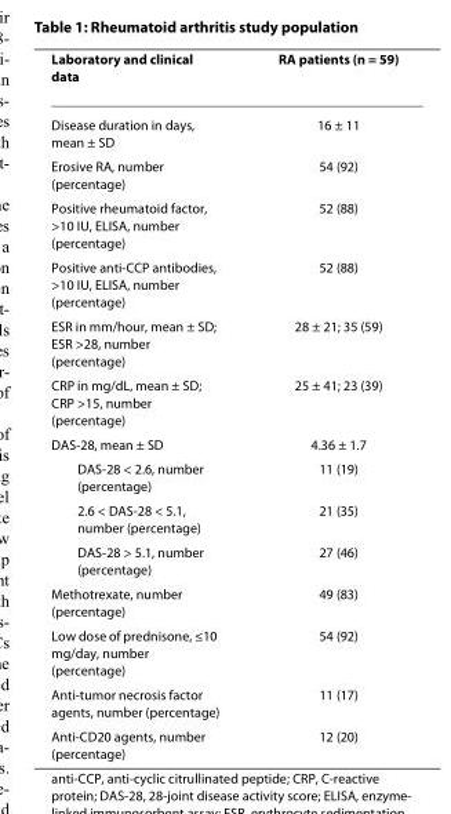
<table><thead><tr><td>Laboratory and clinical data</td><td>RA patients (n = 59)</td></tr></thead><tbody><tr><td>Disease duration in days, mean ± SD</td><td>16 ± 11</td></tr><tr><td>Erosive RA, number (percentage)</td><td>54 (92)</td></tr><tr><td>Positive rheumatoid factor, &gt;10 IU, ELISA, number (percentage)</td><td>52 (88)</td></tr><tr><td>Positive anti-CCP antibodies, &gt;10 IU, ELISA, number (percentage)</td><td>52 (88)</td></tr><tr><td>ESR in mm/hour, mean ± SD; ESR &gt;28, number (percentage)</td><td>28 ± 21; 35 (59)</td></tr><tr><td>CRP in mg/dL, mean ± SD; CRP &gt;15, number (percentage)</td><td>25 ± 41; 23 (39)</td></tr><tr><td>DAS-28, mean ± SD</td><td>4.36 ± 1.7</td></tr><tr><td>DAS-28 &lt; 2.6, number (percentage)</td><td>11 (19)</td></tr><tr><td>2.6 &lt; DAS-28 &lt; 5.1, number (percentage)</td><td>21 (35)</td></tr><tr><td>DAS-28 &gt; 5.1, number (percentage)</td><td>27 (46)</td></tr><tr><td>Methotrexate, number (percentage)</td><td>49 (83)</td></tr><tr><td>Low dose of prednisone, ≤10 mg/day, number (percentage)</td><td>54 (92)</td></tr><tr><td>Anti-tumor necrosis factor agents, number (percentage)</td><td>11 (17)</td></tr><tr><td>Anti-CD20 agents, number (percentage)</td><td>12 (20)</td></tr></tbody></table>